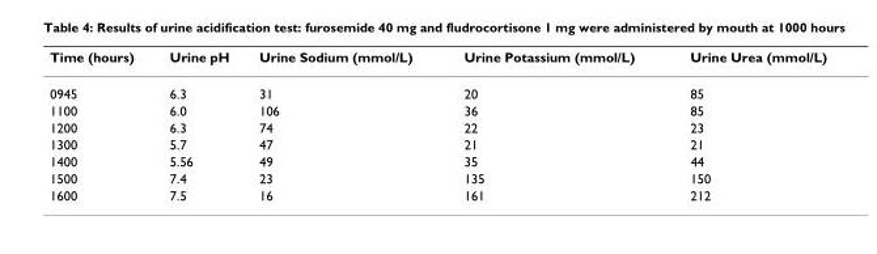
<table><thead><tr><td>Time (hours)</td><td>Urine pH</td><td>Urine Sodium (mmol/L)</td><td>Urine Potassium (mmol/L)</td><td>Urine Urea (mmol/L)</td></tr></thead><tbody><tr><td>0945</td><td>6.3</td><td>31</td><td>20</td><td>85</td></tr><tr><td>1100</td><td>6.0</td><td>106</td><td>36</td><td>85</td></tr><tr><td>1200</td><td>6.3</td><td>74</td><td>22</td><td>23</td></tr><tr><td>1300</td><td>5.7</td><td>47</td><td>21</td><td>21</td></tr><tr><td>1400</td><td>5.56</td><td>49</td><td>35</td><td>44</td></tr><tr><td>1500</td><td>7.4</td><td>23</td><td>135</td><td>150</td></tr><tr><td>1600</td><td>7.5</td><td>16</td><td>161</td><td>212</td></tr></tbody></table>